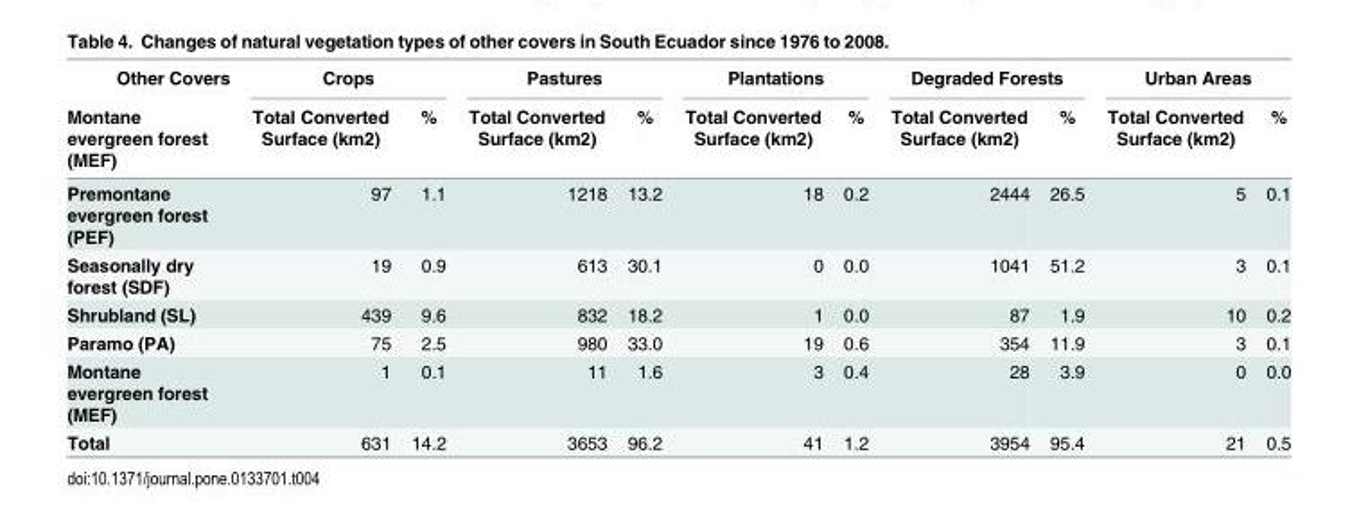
<table><thead><tr><td rowspan="2">Other Covers Montane evergreen forest (MEF)</td><td colspan="2">Crops</td><td colspan="2">Pastures</td><td colspan="2">Plantations</td><td colspan="2">Degraded Forests</td><td colspan="2">Urban Areas</td></tr><tr><td>Total Converted Surface (km2)</td><td>%</td><td>Total Converted Surface (km2)</td><td>%</td><td>Total Converted Surface (km2)</td><td>%</td><td>Total Converted Surface (km2)</td><td>%</td><td>Total Converted Surface (km2)</td><td>%</td></tr></thead><tbody><tr><td>Premontane evergreen forest (PEF)</td><td>97</td><td>1.1</td><td>1218</td><td>13.2</td><td>18</td><td>0.2</td><td>2444</td><td>26.5</td><td>5</td><td>0.1</td></tr><tr><td>Seasonally dry forest (SDF)</td><td>19</td><td>0.9</td><td>613</td><td>30.1</td><td>0</td><td>0.0</td><td>1041</td><td>51.2</td><td>3</td><td>0.1</td></tr><tr><td>Shrubland (SL)</td><td>439</td><td>9.6</td><td>832</td><td>18.2</td><td>1</td><td>0.0</td><td>87</td><td>1.9</td><td>10</td><td>0.2</td></tr><tr><td>Paramo (PA)</td><td>75</td><td>2.5</td><td>980</td><td>33.0</td><td>19</td><td>0.6</td><td>354</td><td>11.9</td><td>3</td><td>0.1</td></tr><tr><td>Montane evergreen forest (MEF)</td><td>1</td><td>0.1</td><td>11</td><td>1.6</td><td>3</td><td>0.4</td><td>28</td><td>3.9</td><td>0</td><td>0.0</td></tr><tr><td>Total</td><td>631</td><td>14.2</td><td>3653</td><td>96.2</td><td>41</td><td>1.2</td><td>3954</td><td>95.4</td><td>21</td><td>0.5</td></tr></tbody></table>